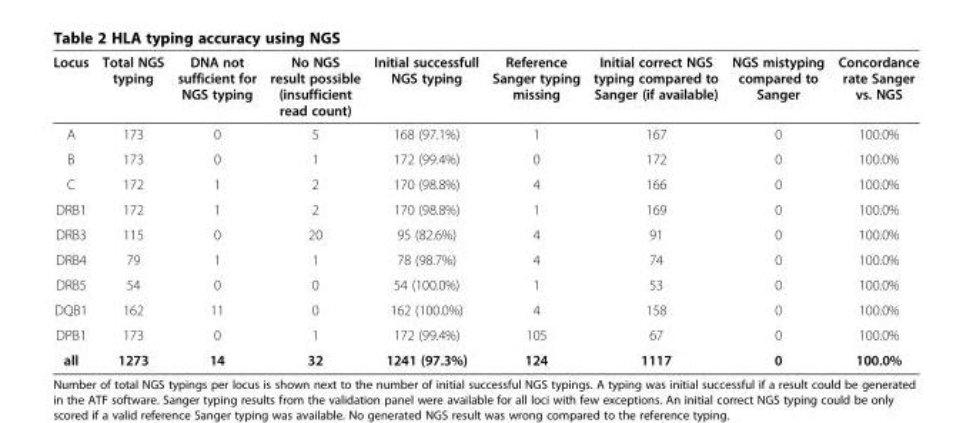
<table><thead><tr><td>Locus</td><td>Total NGS typing</td><td>DNA not sufficient for NGS typing</td><td>No NGS result possible (insufficient read count)</td><td>Initial successfull NGS typing</td><td>Reference Sanger typing missing</td><td>Initial correct NGS typing compared to Sanger (if available)</td><td>NGS mistyping compared to Sanger</td><td>Concordance rate Sanger vs. NGS</td></tr></thead><tbody><tr><td>A</td><td>173</td><td>0</td><td>5</td><td>168 (97.1%)</td><td>1</td><td>167</td><td>0</td><td>100.0%</td></tr><tr><td>B</td><td>173</td><td>0</td><td>1</td><td>172 (99.4%)</td><td>0</td><td>172</td><td>0</td><td>100.0%</td></tr><tr><td>C</td><td>172</td><td>1</td><td>2</td><td>170 (98.8%)</td><td>4</td><td>166</td><td>0</td><td>100.0%</td></tr><tr><td>DRB1</td><td>172</td><td>1</td><td>2</td><td>170 (98.8%)</td><td>1</td><td>169</td><td>0</td><td>100.0%</td></tr><tr><td>DRB3</td><td>115</td><td>0</td><td>20</td><td>95 (82.6%)</td><td>4</td><td>91</td><td>0</td><td>100.0%</td></tr><tr><td>DRB4</td><td>79</td><td>1</td><td>1</td><td>78 (98.7%)</td><td>4</td><td>74</td><td>0</td><td>100.0%</td></tr><tr><td>DRB5</td><td>54</td><td>0</td><td>0</td><td>54 (100.0%)</td><td>1</td><td>53</td><td>0</td><td>100.0%</td></tr><tr><td>DQB1</td><td>162</td><td>11</td><td>0</td><td>162 (100.0%)</td><td>4</td><td>158</td><td>0</td><td>100.0%</td></tr><tr><td>DPB1</td><td>173</td><td>0</td><td>1</td><td>172 (99.4%)</td><td>105</td><td>67</td><td>0</td><td>100.0%</td></tr><tr><td>all</td><td>1273</td><td>14</td><td>32</td><td>1241 (97.3%)</td><td>124</td><td>1117</td><td>0</td><td>100.0%</td></tr></tbody></table>